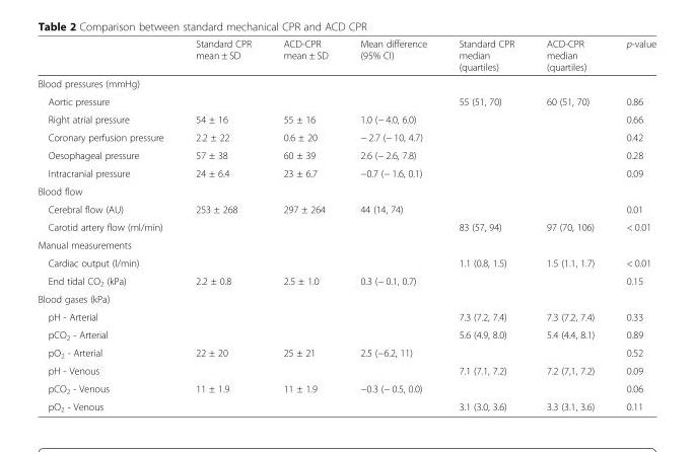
<table><thead><tr><td></td><td>Standard CPR mean ± SD</td><td>ACD-CPR mean ± SD</td><td>Mean difference (95% CI)</td><td>Standard CPR median (quartiles)</td><td>ACD-CPR median (quartiles)</td><td>p-value</td></tr></thead><tbody><tr><td colspan="7">Blood pressures (mmHg)</td></tr><tr><td>Aortic pressure</td><td colspan="3"></td><td>55 (51, 70)</td><td>60 (51, 70)</td><td>0.86</td></tr><tr><td>Right atrial pressure</td><td>54 ± 16</td><td>55 ± 16</td><td>1.0 (− 4.0, 6.0)</td><td colspan="2"></td><td>0.66</td></tr><tr><td>Coronary perfusion pressure</td><td>2.2 ± 22</td><td>0.6 ± 20</td><td>− 2.7 (− 10, 4.7)</td><td colspan="2"></td><td>0.42</td></tr><tr><td>Oesophageal pressure</td><td>57 ± 38</td><td>60 ± 39</td><td>2.6 (− 2.6, 7.8)</td><td colspan="2"></td><td>0.28</td></tr><tr><td>Intracranial pressure</td><td>24 ± 6.4</td><td>23 ± 6.7</td><td>−0.7 (− 1.6, 0.1)</td><td colspan="2"></td><td>0.09</td></tr><tr><td colspan="7">Blood flow</td></tr><tr><td>Cerebral flow (AU)</td><td>253 ± 268</td><td>297 ± 264</td><td>44 (14, 74)</td><td colspan="2"></td><td>0.01</td></tr><tr><td>Carotid artery flow (ml/min)</td><td colspan="3"></td><td>83 (57, 94)</td><td>97 (70, 106)</td><td>&lt; 0.01</td></tr><tr><td colspan="7">Manual measurements</td></tr><tr><td>Cardiac output (l/min)</td><td colspan="3"></td><td>1.1 (0.8, 1.5)</td><td>1.5 (1.1, 1.7)</td><td>&lt; 0.01</td></tr><tr><td>End tidal CO<sub>2</sub> (kPa)</td><td>2.2 ± 0.8</td><td>2.5 ± 1.0</td><td>0.3 (− 0.1, 0.7)</td><td></td><td></td><td>0.15</td></tr><tr><td colspan="7">Blood gases (kPa)</td></tr><tr><td>pH - Arterial</td><td colspan="3"></td><td>7.3 (7.2, 7.4)</td><td>7.3 (7.2, 7.4)</td><td>0.33</td></tr><tr><td>pCO<sub>2</sub> - Arterial</td><td colspan="3"></td><td>5.6 (4.9, 8.0)</td><td>5.4 (4.4, 8.1)</td><td>0.89</td></tr><tr><td>pO<sub>2</sub> - Arterial</td><td>22 ± 20</td><td>25 ± 21</td><td>2.5 (−6.2, 11)</td><td></td><td></td><td>0.52</td></tr><tr><td>pH - Venous</td><td colspan="3"></td><td>7.1 (7.1, 7.2)</td><td>7.2 (7,1, 7.2)</td><td>0.09</td></tr><tr><td>pCO<sub>2</sub> - Venous</td><td>11 ± 1.9</td><td>11 ± 1.9</td><td>−0.3 (− 0.5, 0.0)</td><td colspan="2"></td><td>0.06</td></tr><tr><td>pO<sub>2</sub> - Venous</td><td colspan="3"></td><td>3.1 (3.0, 3.6)</td><td>3.3 (3.1, 3.6)</td><td>0.11</td></tr></tbody></table>